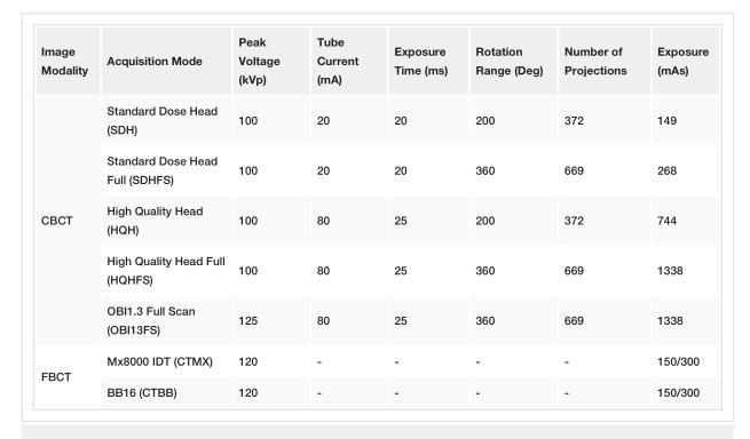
<table><tbody><tr><td>Image Modality</td><td>Acquisition Mode</td><td>Peak Voltage (kVp)</td><td>Tube Current (mA)</td><td>Exposure Time (ms)</td><td>Rotation Range (Deg)</td><td>Number of Projections</td><td>Exposure (mAs)</td></tr><tr><td rowspan="5">CBCT</td><td>Standard Dose Head (SDH)</td><td>100</td><td>20</td><td>20</td><td>200</td><td>372</td><td>149</td></tr><tr><td>Standard Dose Head Full (SDHFS)</td><td>100</td><td>20</td><td>20</td><td>360</td><td>669</td><td>268</td></tr><tr><td>High Quality Head (HQH)</td><td>100</td><td>80</td><td>25</td><td>200</td><td>372</td><td>744</td></tr><tr><td>High Quality Head Full (HQHFS)</td><td>100</td><td>80</td><td>25</td><td>360</td><td>669</td><td>1338</td></tr><tr><td>OBI1.3 Full Scan (OBI13FS)</td><td>125</td><td>80</td><td>25</td><td>360</td><td>669</td><td>1338</td></tr><tr><td rowspan="2">FBCT</td><td>Mx8000 IDT (CTMX)</td><td>120</td><td>-</td><td>-</td><td>-</td><td>-</td><td>150/300</td></tr><tr><td>BB16 (CTBB)</td><td>120</td><td>-</td><td>-</td><td>-</td><td>-</td><td>150/300</td></tr></tbody></table>